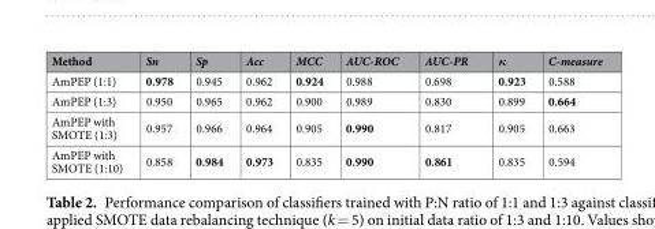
<table><thead><tr><td>Method</td><td>Sn</td><td>Sp</td><td>Acc</td><td>MCC</td><td>AUC-ROC</td><td>AUC-PR</td><td>κ</td><td>C-measure</td></tr></thead><tbody><tr><td>AmPEP (1:1)</td><td>0.978</td><td>0.945</td><td>0.962</td><td>0.924</td><td>0.988</td><td>0.698</td><td>0.923</td><td>0.588</td></tr><tr><td>AmPEP (1:3)</td><td>0.950</td><td>0.965</td><td>0.962</td><td>0.900</td><td>0.989</td><td>0.830</td><td>0.899</td><td>0.664</td></tr><tr><td>AmPEP with SMOTE (1:3)</td><td>0.957</td><td>0.966</td><td>0.964</td><td>0.905</td><td>0.990</td><td>0.817</td><td>0.905</td><td>0.663</td></tr><tr><td>AmPEP with SMOTE (1:10)</td><td>0.858</td><td>0.984</td><td>0.973</td><td>0.835</td><td>0.990</td><td>0.861</td><td>0.835</td><td>0.594</td></tr></tbody></table>